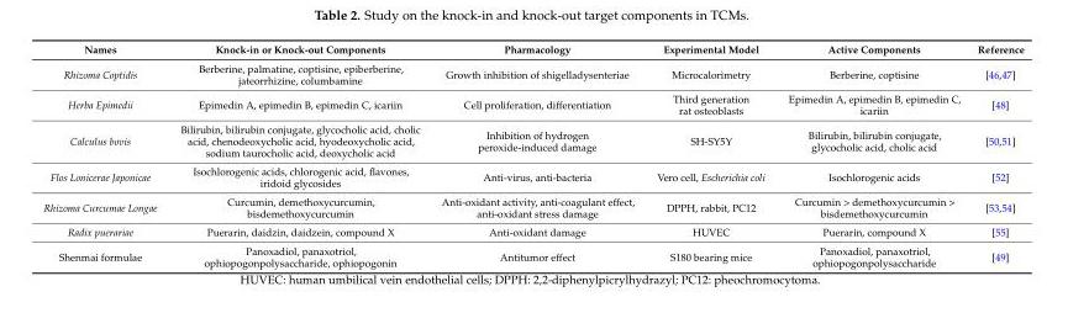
<table><thead><tr><td>Names</td><td>Knock-in or Knock-out Components</td><td>Pharmacology</td><td>Experimental Model</td><td>Active Components</td><td>Reference</td></tr></thead><tbody><tr><td>Rhizoma Coptidis</td><td>Berberine, palmatine, coptisine, epiberberine, jateorrhizine, columbamine</td><td>Growth inhibition of shigelladysenteriae</td><td>Microcalorimetry</td><td>Berberine, coptisine</td><td>[46,47]</td></tr><tr><td>Herba Epimedii</td><td>Epimedin A, epimedin B, epimedin C, icariin</td><td>Cell proliferation, differentiation</td><td>Third generation rat osteoblasts</td><td>Epimedin A, epimedin B, epimedin C, icariin</td><td>[48]</td></tr><tr><td>Calculus bovis</td><td>Bilirubin, bilirubin conjugate, glycocholic acid, cholic acid, chenodeoxycholic acid, hyodeoxycholic acid, sodium taurocholic acid, deoxycholic acid</td><td>Inhibition of hydrogen peroxide-induced damage</td><td>SH-SY5Y</td><td>Bilirubin, bilirubin conjugate, glycocholic acid, cholic acid</td><td>[50,51]</td></tr><tr><td>Flos Lonicerae Japonicae</td><td>Isochlorogenic acids, chlorogenic acid, flavones, iridoid glycosides</td><td>Anti-virus, anti-bacteria</td><td>Vero cell, Escherichia coli</td><td>Isochlorogenic acids</td><td>[52]</td></tr><tr><td>Rhizoma Curcumae Longae</td><td>Curcumin, demethoxycurcumin, bisdemethoxycurcumin</td><td>Anti-oxidant activity, anti-coagulant effect, anti-oxidant stress damage</td><td>DPPH, rabbit, PC12</td><td>Curcumin &gt; demethoxycurcumin &gt; bisdemethoxycurcumin</td><td>[53,54]</td></tr><tr><td>Radix puerariae</td><td>Puerarin, daidzin, daidzein, compound X</td><td>Anti-oxidant damage</td><td>HUVEC</td><td>Puerarin, compound X</td><td>[55]</td></tr><tr><td>Shenmai formulae</td><td>Panoxadiol, panaxotriol, ophiopogonpolysaccharide, ophiopogonin</td><td>Antitumor effect</td><td>S180 bearing mice</td><td>Panoxadiol, panaxotriol, ophiopogonpolysaccharide</td><td>[49]</td></tr></tbody></table>